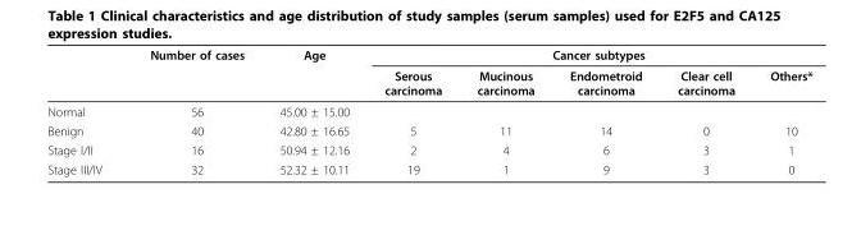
<table><thead><tr><td rowspan="2"></td><td rowspan="2">Number of cases</td><td rowspan="2">Age</td><td colspan="5">Cancer subtypes</td></tr><tr><td>Serous carcinoma</td><td>Mucinous carcinoma</td><td>Endometroid carcinoma</td><td>Clear cell carcinoma</td><td>Others*</td></tr></thead><tbody><tr><td>Normal</td><td>56</td><td>45.00 ± 15.00</td><td></td><td></td><td></td><td></td><td></td></tr><tr><td>Benign</td><td>40</td><td>42.80 ± 16.65</td><td>5</td><td>11</td><td>14</td><td>0</td><td>10</td></tr><tr><td>Stage I/II</td><td>16</td><td>50.94 ± 12.16</td><td>2</td><td>4</td><td>6</td><td>3</td><td>1</td></tr><tr><td>Stage III/IV</td><td>32</td><td>52.32 ± 10.11</td><td>19</td><td>1</td><td>9</td><td>3</td><td>0</td></tr></tbody></table>